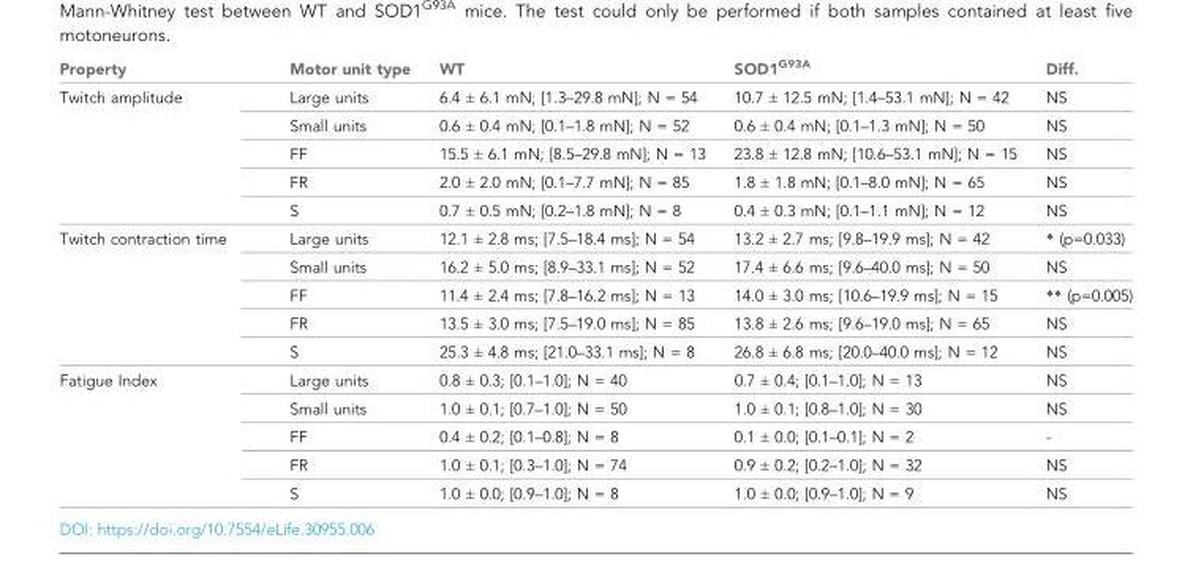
<table><thead><tr><td>Property</td><td>Motor unit type</td><td>WT</td><td>SOD1<sup>G93A</sup></td><td>Diff.</td></tr></thead><tbody><tr><td rowspan="5">Twitch amplitude</td><td>Large units</td><td>6.4 ± 6.1 mN; [1.3–29.8 mN]; N = 54</td><td>10.7 ± 12.5 mN; [1.4–53.1 mN]; N = 42</td><td>NS</td></tr><tr><td>Small units</td><td>0.6 ± 0.4 mN; [0.1–1.8 mN]; N = 52</td><td>0.6 ± 0.4 mN; [0.1–1.3 mN]; N = 50</td><td>NS</td></tr><tr><td>FF</td><td>15.5 ± 6.1 mN; [8.5–29.8 mN]; N = 13</td><td>23.8 ± 12.8 mN; [10.6–53.1 mN]; N = 15</td><td>NS</td></tr><tr><td>FR</td><td>2.0 ± 2.0 mN; [0.1–7.7 mN]; N = 85</td><td>1.8 ± 1.8 mN; [0.1–8.0 mN]; N = 65</td><td>NS</td></tr><tr><td>S</td><td>0.7 ± 0.5 mN; [0.2–1.8 mN]; N = 8</td><td>0.4 ± 0.3 mN; [0.1–1.1 mN]; N = 12</td><td>NS</td></tr><tr><td rowspan="5">Twitch contraction time</td><td>Large units</td><td>12.1 ± 2.8 ms; [7.5–18.4 ms]; N = 54</td><td>13.2 ± 2.7 ms; [9.8–19.9 ms]; N = 42</td><td>* (p=0.033)</td></tr><tr><td>Small units</td><td>16.2 ± 5.0 ms; [8.9–33.1 ms]; N = 52</td><td>17.4 ± 6.6 ms; [9.6–40.0 ms]; N = 50</td><td>NS</td></tr><tr><td>FF</td><td>11.4 ± 2.4 ms; [7.8–16.2 ms]; N = 13</td><td>14.0 ± 3.0 ms; [10.6–19.9 ms]; N = 15</td><td>** (p=0.005)</td></tr><tr><td>FR</td><td>13.5 ± 3.0 ms; [7.5–19.0 ms]; N = 85</td><td>13.8 ± 2.6 ms; [9.6–19.0 ms]; N = 65</td><td>NS</td></tr><tr><td>S</td><td>25.3 ± 4.8 ms; [21.0–33.1 ms]; N = 8</td><td>26.8 ± 6.8 ms; [20.0–40.0 ms]; N = 12</td><td>NS</td></tr><tr><td rowspan="5">Fatigue Index</td><td>Large units</td><td>0.8 ± 0.3; [0.1–1.0]; N = 40</td><td>0.7 ± 0.4; [0.1–1.0]; N = 13</td><td>NS</td></tr><tr><td>Small units</td><td>1.0 ± 0.1; [0.7–1.0]; N = 50</td><td>1.0 ± 0.1; [0.8–1.0]; N = 30</td><td>NS</td></tr><tr><td>FF</td><td>0.4 ± 0.2; [0.1–0.8]; N = 8</td><td>0.1 ± 0.0; [0.1–0.1]; N = 2</td><td>-</td></tr><tr><td>FR</td><td>1.0 ± 0.1; [0.3–1.0]; N = 74</td><td>0.9 ± 0.2; [0.2–1.0]; N = 32</td><td>NS</td></tr><tr><td>S</td><td>1.0 ± 0.0; [0.9–1.0]; N = 8</td><td>1.0 ± 0.0; [0.9–1.0]; N = 9</td><td>NS</td></tr></tbody></table>